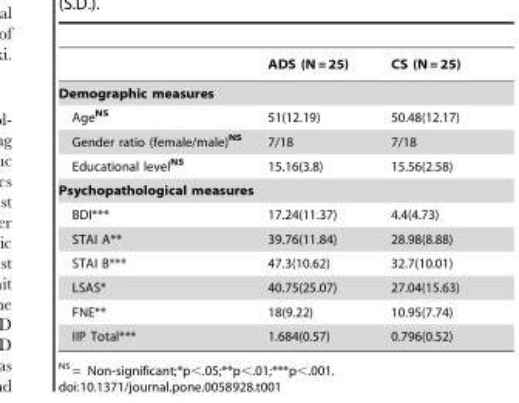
<table><thead><tr><td></td><td>ADS (N = 25)</td><td>CS (N = 25)</td></tr></thead><tbody><tr><td colspan="3">Demographic measures</td></tr><tr><td>Age<sup>NS</sup></td><td>51(12.19)</td><td>50.48(12.17)</td></tr><tr><td>Gender ratio (female/male)<sup>NS</sup></td><td>7/18</td><td>7/18</td></tr><tr><td>Educational level<sup>NS</sup></td><td>15.16(3.8)</td><td>15.56(2.58)</td></tr><tr><td colspan="3">Psychopathological measures</td></tr><tr><td>BDI***</td><td>17.24(11.37)</td><td>4.4(4.73)</td></tr><tr><td>STAI A**</td><td>39.76(11.84)</td><td>28.98(8.88)</td></tr><tr><td>STAI B***</td><td>47.3(10.62)</td><td>32.7(10.01)</td></tr><tr><td>LSAS*</td><td>40.75(25.07)</td><td>27.04(15.63)</td></tr><tr><td>FNE**</td><td>18(9.22)</td><td>10.95(7.74)</td></tr><tr><td>IIP Total***</td><td>1.684(0.57)</td><td>0.796(0.52)</td></tr></tbody></table>